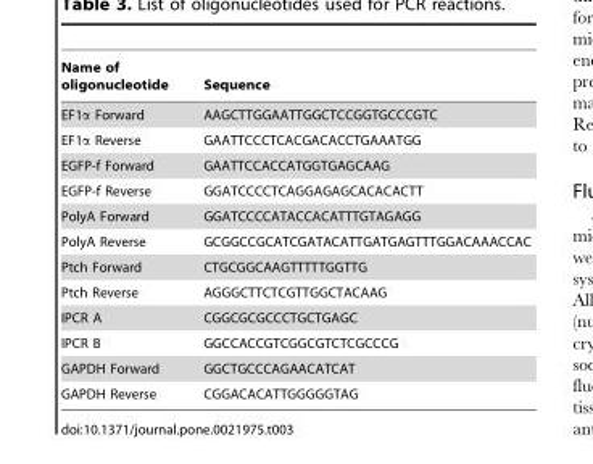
<table><thead><tr><td>Name of oligonucleotide</td><td>Sequence</td></tr></thead><tbody><tr><td>EF1α Forward</td><td>AAGCTTGGAATTGGCTCCGGTGCCCGTC</td></tr><tr><td>EF1α Reverse</td><td>GAATTCCCTCACGACACCTGAAATGG</td></tr><tr><td>EGFP-f Forward</td><td>GAATTCCACCATGGTGAGCAAG</td></tr><tr><td>EGFP-f Reverse</td><td>GGATCCCCTCAGGAGAGCACACACTT</td></tr><tr><td>PolyA Forward</td><td>GGATCCCCATACCACATTTGTAGAGG</td></tr><tr><td>PolyA Reverse</td><td>GCGGCCGCATCGATACATTGATGAGTTTGGACAAACCAC</td></tr><tr><td>Ptch Forward</td><td>CTGCGGCAAGTTTTTGGTTG</td></tr><tr><td>Ptch Reverse</td><td>AGGGCTTCTCGTTGGCTACAAG</td></tr><tr><td>IPCR A</td><td>CGGCGCGCCCTGCTGAGC</td></tr><tr><td>IPCR B</td><td>GGCCACCGTCGGCGTCTCGCCCG</td></tr><tr><td>GAPDH Forward</td><td>GGCTGCCCAGAACATCAT</td></tr><tr><td>GAPDH Reverse</td><td>CGGACACATTGGGGGTAG</td></tr></tbody></table>